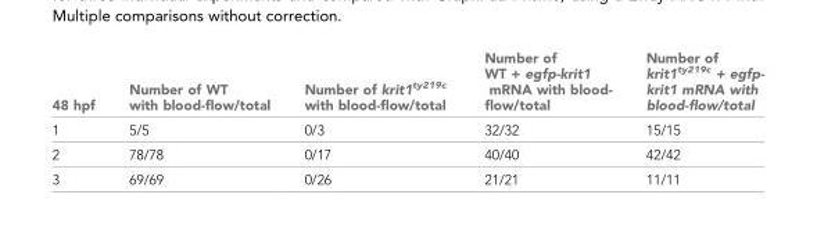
<table><thead><tr><td>48 hpf</td><td>Number of WT with blood-flow/total</td><td>Number of krit1<sup>ty219c</sup> with blood-flow/total</td><td>Number of WT + egfp-krit1 mRNA with blood- flow/total</td><td>Number of krit1<sup>ty219c</sup> + egfp- krit1 mRNA with blood-flow/total</td></tr></thead><tbody><tr><td>1</td><td>5/5</td><td>0/3</td><td>32/32</td><td>15/15</td></tr><tr><td>2</td><td>78/78</td><td>0/17</td><td>40/40</td><td>42/42</td></tr><tr><td>3</td><td>69/69</td><td>0/26</td><td>21/21</td><td>11/11</td></tr></tbody></table>